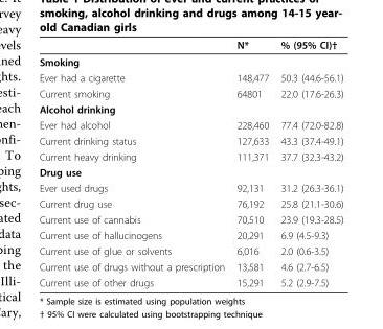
<table><thead><tr><td></td><td>N*</td><td>% (95% CI)†</td></tr></thead><tbody><tr><td colspan="3">Smoking</td></tr><tr><td>Ever had a cigarette</td><td>148,477</td><td>50.3 (44.6-56.1)</td></tr><tr><td>Current smoking</td><td>64801</td><td>22.0 (17.6-26.3)</td></tr><tr><td colspan="3">Alcohol drinking</td></tr><tr><td>Ever had alcohol</td><td>228,460</td><td>77.4 (72.0-82.8)</td></tr><tr><td>Current drinking status</td><td>127,633</td><td>43.3 (37.4-49.1)</td></tr><tr><td>Current heavy drinking</td><td>111,371</td><td>37.7 (32.3-43.2)</td></tr><tr><td colspan="3">Drug use</td></tr><tr><td>Ever used drugs</td><td>92,131</td><td>31.2 (26.3-36.1)</td></tr><tr><td>Current drug use</td><td>76,192</td><td>25.8 (21.1-30.6)</td></tr><tr><td>Current use of cannabis</td><td>70,510</td><td>23.9 (19.3-28.5)</td></tr><tr><td>Current use of hallucinogens</td><td>20,291</td><td>6.9 (4.5-9.3)</td></tr><tr><td>Current use of glue or solvents</td><td>6,016</td><td>2.0 (0.6-3.5)</td></tr><tr><td>Current use of drugs without a prescription</td><td>13,581</td><td>4.6 (2.7-6.5)</td></tr><tr><td>Current use of other drugs</td><td>15,291</td><td>5.2 (2.9-7.5)</td></tr></tbody></table>